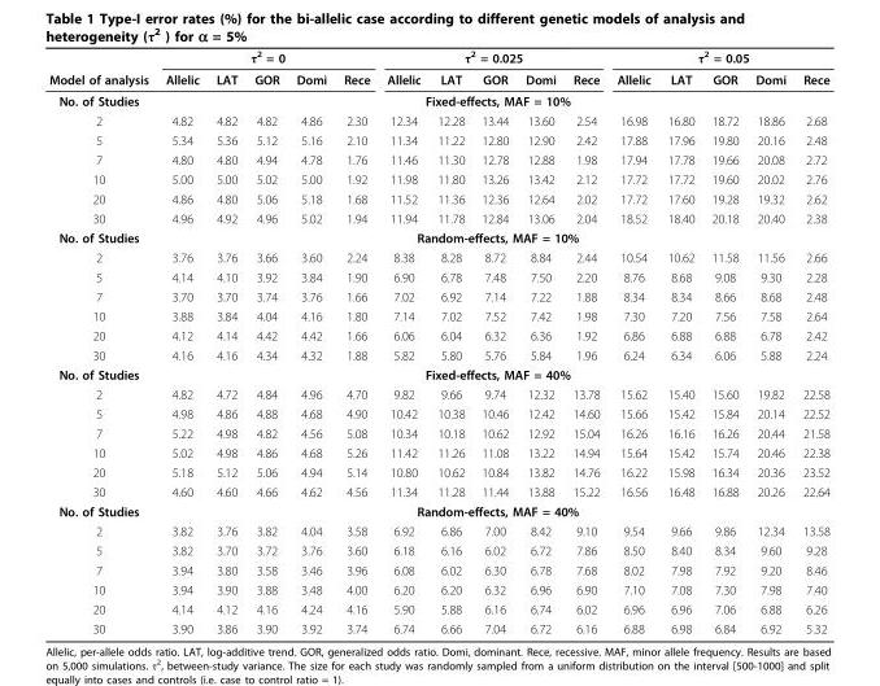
<table><thead><tr><td rowspan="2">Model of analysis</td><td colspan="5">τ<sup>2</sup> = 0</td><td colspan="5">τ<sup>2</sup> = 0.025</td><td colspan="5">τ<sup>2</sup> = 0.05</td></tr><tr><td>Allelic</td><td>LAT</td><td>GOR</td><td>Domi</td><td>Rece</td><td>Allelic</td><td>LAT</td><td>GOR</td><td>Domi</td><td>Rece</td><td>Allelic</td><td>LAT</td><td>GOR</td><td>Domi</td><td>Rece</td></tr></thead><tbody><tr><td>No. of Studies</td><td colspan="15">Fixed-effects, MAF = 10%</td></tr><tr><td>2</td><td>4.82</td><td>4.82</td><td>4.82</td><td>4.86</td><td>2.30</td><td>12.34</td><td>12.28</td><td>13.44</td><td>13.60</td><td>2.54</td><td>16.98</td><td>16.80</td><td>18.72</td><td>18.86</td><td>2.68</td></tr><tr><td>5</td><td>5.34</td><td>5.36</td><td>5.12</td><td>5.16</td><td>2.10</td><td>11.34</td><td>11.22</td><td>12.80</td><td>12.90</td><td>2.42</td><td>17.88</td><td>17.96</td><td>19.80</td><td>20.16</td><td>2.48</td></tr><tr><td>7</td><td>4.80</td><td>4.80</td><td>4.94</td><td>4.78</td><td>1.76</td><td>11.46</td><td>11.30</td><td>12.78</td><td>12.88</td><td>1.98</td><td>17.94</td><td>17.78</td><td>19.66</td><td>20.08</td><td>2.72</td></tr><tr><td>10</td><td>5.00</td><td>5.00</td><td>5.02</td><td>5.00</td><td>1.92</td><td>11.98</td><td>11.80</td><td>13.26</td><td>13.42</td><td>2.12</td><td>17.72</td><td>17.72</td><td>19.60</td><td>20.02</td><td>2.76</td></tr><tr><td>20</td><td>4.86</td><td>4.80</td><td>5.06</td><td>5.18</td><td>1.68</td><td>11.52</td><td>11.36</td><td>12.36</td><td>12.64</td><td>2.02</td><td>17.72</td><td>17.60</td><td>19.28</td><td>19.32</td><td>2.62</td></tr><tr><td>30</td><td>4.96</td><td>4.92</td><td>4.96</td><td>5.02</td><td>1.94</td><td>11.94</td><td>11.78</td><td>12.84</td><td>13.06</td><td>2.04</td><td>18.52</td><td>18.40</td><td>20.18</td><td>20.40</td><td>2.38</td></tr><tr><td>No. of Studies</td><td colspan="15">Random-effects, MAF = 10%</td></tr><tr><td>2</td><td>3.76</td><td>3.76</td><td>3.66</td><td>3.60</td><td>2.24</td><td>8.38</td><td>8.28</td><td>8.72</td><td>8.84</td><td>2.44</td><td>10.54</td><td>10.62</td><td>11.58</td><td>11.56</td><td>2.66</td></tr><tr><td>5</td><td>4.14</td><td>4.10</td><td>3.92</td><td>3.84</td><td>1.90</td><td>6.90</td><td>6.78</td><td>7.48</td><td>7.50</td><td>2.20</td><td>8.76</td><td>8.68</td><td>9.08</td><td>9.30</td><td>2.28</td></tr><tr><td>7</td><td>3.70</td><td>3.70</td><td>3.74</td><td>3.76</td><td>1.66</td><td>7.02</td><td>6.92</td><td>7.14</td><td>7.22</td><td>1.88</td><td>8.34</td><td>8.34</td><td>8.66</td><td>8.68</td><td>2.48</td></tr><tr><td>10</td><td>3.88</td><td>3.84</td><td>4.04</td><td>4.16</td><td>1.80</td><td>7.14</td><td>7.02</td><td>7.52</td><td>7.42</td><td>1.98</td><td>7.30</td><td>7.20</td><td>7.56</td><td>7.58</td><td>2.64</td></tr><tr><td>20</td><td>4.12</td><td>4.14</td><td>4.42</td><td>4.42</td><td>1.66</td><td>6.06</td><td>6.04</td><td>6.32</td><td>6.36</td><td>1.92</td><td>6.86</td><td>6.88</td><td>6.88</td><td>6.78</td><td>2.42</td></tr><tr><td>30</td><td>4.16</td><td>4.16</td><td>4.34</td><td>4.32</td><td>1.88</td><td>5.82</td><td>5.80</td><td>5.76</td><td>5.84</td><td>1.96</td><td>6.24</td><td>6.34</td><td>6.06</td><td>5.88</td><td>2.24</td></tr><tr><td>No. of Studies</td><td colspan="15">Fixed-effects, MAF = 40%</td></tr><tr><td>2</td><td>4.82</td><td>4.72</td><td>4.84</td><td>4.96</td><td>4.70</td><td>9.82</td><td>9.66</td><td>9.74</td><td>12.32</td><td>13.78</td><td>15.62</td><td>15.40</td><td>15.60</td><td>19.82</td><td>22.58</td></tr><tr><td>5</td><td>4.98</td><td>4.86</td><td>4.88</td><td>4.68</td><td>4.90</td><td>10.42</td><td>10.38</td><td>10.46</td><td>12.42</td><td>14.60</td><td>15.66</td><td>15.42</td><td>15.84</td><td>20.14</td><td>22.52</td></tr><tr><td>7</td><td>5.22</td><td>4.98</td><td>4.82</td><td>4.56</td><td>5.08</td><td>10.34</td><td>10.18</td><td>10.62</td><td>12.92</td><td>15.04</td><td>16.26</td><td>16.16</td><td>16.26</td><td>20.44</td><td>21.58</td></tr><tr><td>10</td><td>5.02</td><td>4.98</td><td>4.86</td><td>4.68</td><td>5.26</td><td>11.42</td><td>11.26</td><td>11.08</td><td>13.22</td><td>14.94</td><td>15.64</td><td>15.42</td><td>15.74</td><td>20.46</td><td>22.38</td></tr><tr><td>20</td><td>5.18</td><td>5.12</td><td>5.06</td><td>4.94</td><td>5.14</td><td>10.80</td><td>10.62</td><td>10.84</td><td>13.82</td><td>14.76</td><td>16.22</td><td>15.98</td><td>16.34</td><td>20.36</td><td>23.52</td></tr><tr><td>30</td><td>4.60</td><td>4.60</td><td>4.66</td><td>4.62</td><td>4.56</td><td>11.34</td><td>11.28</td><td>11.44</td><td>13.88</td><td>15.22</td><td>16.56</td><td>16.48</td><td>16.88</td><td>20.26</td><td>22.64</td></tr><tr><td>No. of Studies</td><td colspan="15">Random-effects, MAF = 40%</td></tr><tr><td>2</td><td>3.82</td><td>3.76</td><td>3.82</td><td>4.04</td><td>3.58</td><td>6.92</td><td>6.86</td><td>7.00</td><td>8.42</td><td>9.10</td><td>9.54</td><td>9.66</td><td>9.86</td><td>12.34</td><td>13.58</td></tr><tr><td>5</td><td>3.82</td><td>3.70</td><td>3.72</td><td>3.76</td><td>3.60</td><td>6.18</td><td>6.16</td><td>6.02</td><td>6.72</td><td>7.86</td><td>8.50</td><td>8.40</td><td>8.34</td><td>9.60</td><td>9.28</td></tr><tr><td>7</td><td>3.94</td><td>3.80</td><td>3.58</td><td>3.46</td><td>3.96</td><td>6.08</td><td>6.02</td><td>6.30</td><td>6.78</td><td>7.68</td><td>8.02</td><td>7.98</td><td>7.92</td><td>9.20</td><td>8.46</td></tr><tr><td>10</td><td>3.94</td><td>3.90</td><td>3.88</td><td>3.48</td><td>4.00</td><td>6.20</td><td>6.20</td><td>6.32</td><td>6.96</td><td>6.90</td><td>7.10</td><td>7.08</td><td>7.30</td><td>7.98</td><td>7.40</td></tr><tr><td>20</td><td>4.14</td><td>4.12</td><td>4.16</td><td>4.24</td><td>4.16</td><td>5.90</td><td>5.88</td><td>6.16</td><td>6.74</td><td>6.02</td><td>6.96</td><td>6.96</td><td>7.06</td><td>6.88</td><td>6.26</td></tr><tr><td>30</td><td>3.90</td><td>3.86</td><td>3.90</td><td>3.92</td><td>3.74</td><td>6.74</td><td>6.66</td><td>7.04</td><td>6.72</td><td>6.16</td><td>6.88</td><td>6.98</td><td>6.84</td><td>6.92</td><td>5.32</td></tr></tbody></table>